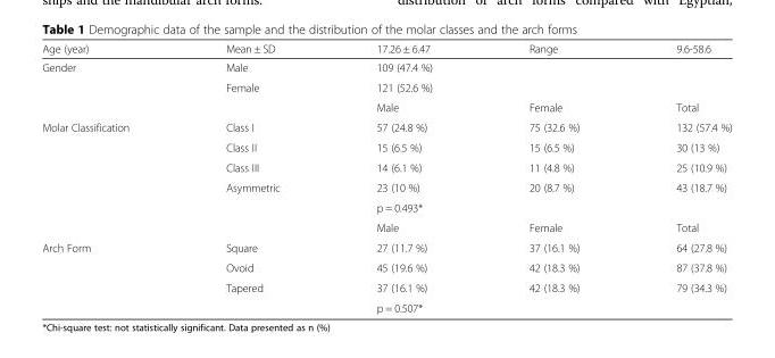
<table><thead><tr><td>Age (year)</td><td>Mean ± SD</td><td>17.26 ± 6.47</td><td>Range</td><td>9.6-58.6</td></tr></thead><tbody><tr><td rowspan="3">Gender</td><td>Male</td><td>109 (47.4 %)</td><td></td><td></td></tr><tr><td>Female</td><td>121 (52.6 %)</td><td></td><td></td></tr><tr><td></td><td>Male</td><td>Female</td><td>Total</td></tr><tr><td rowspan="6">Molar Classification</td><td>Class I</td><td>57 (24.8 %)</td><td>75 (32.6 %)</td><td>132 (57.4 %)</td></tr><tr><td>Class II</td><td>15 (6.5 %)</td><td>15 (6.5 %)</td><td>30 (13 %)</td></tr><tr><td>Class III</td><td>14 (6.1 %)</td><td>11 (4.8 %)</td><td>25 (10.9 %)</td></tr><tr><td>Asymmetric</td><td>23 (10 %)</td><td>20 (8.7 %)</td><td>43 (18.7 %)</td></tr><tr><td></td><td colspan="2">p = 0.493*</td><td></td></tr><tr><td></td><td>Male</td><td>Female</td><td>Total</td></tr><tr><td rowspan="4">Arch Form</td><td>Square</td><td>27 (11.7 %)</td><td>37 (16.1 %)</td><td>64 (27.8 %)</td></tr><tr><td>Ovoid</td><td>45 (19.6 %)</td><td>42 (18.3 %)</td><td>87 (37.8 %)</td></tr><tr><td>Tapered</td><td>37 (16.1 %)</td><td>42 (18.3 %)</td><td>79 (34.3 %)</td></tr><tr><td></td><td colspan="2">p = 0.507*</td><td></td></tr></tbody></table>